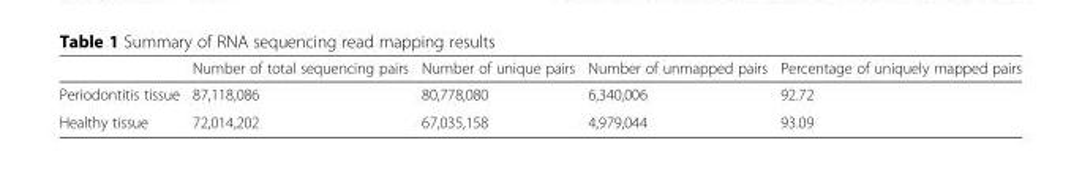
<table><thead><tr><td></td><td>Number of total sequencing pairs</td><td>Number of unique pairs</td><td>Number of unmapped pairs</td><td>Percentage of uniquely mapped pairs</td></tr></thead><tbody><tr><td>Periodontitis tissue</td><td>87,118,086</td><td>80,778,080</td><td>6,340,006</td><td>92.72</td></tr><tr><td>Healthy tissue</td><td>72,014,202</td><td>67,035,158</td><td>4,979,044</td><td>93.09</td></tr></tbody></table>